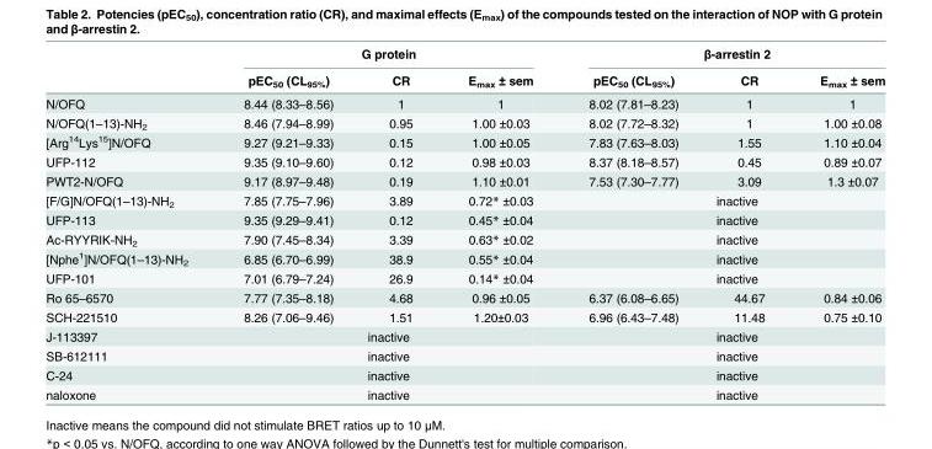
<table><thead><tr><td rowspan="2"></td><td colspan="3">G protein</td><td colspan="3">β-arrestin 2</td></tr><tr><td>pEC<sub>50</sub> (CL<sub>95%</sub>)</td><td>CR</td><td>E<sub>max</sub> ± sem</td><td>pEC<sub>50</sub> (CL<sub>95%</sub>)</td><td>CR</td><td>E<sub>max</sub> ± sem</td></tr></thead><tbody><tr><td>N/OFQ</td><td>8.44 (8.33–8.56)</td><td>1</td><td>1</td><td>8.02 (7.81–8.23)</td><td>1</td><td>1</td></tr><tr><td>N/OFQ(1–13)-NH<sub>2</sub></td><td>8.46 (7.94–8.99)</td><td>0.95</td><td>1.00 ±0.03</td><td>8.02 (7.72–8.32)</td><td>1</td><td>1.00 ±0.08</td></tr><tr><td>[Arg<sup>14</sup>Lys<sup>15</sup>]N/OFQ</td><td>9.27 (9.21–9.33)</td><td>0.15</td><td>1.00 ±0.05</td><td>7.83 (7.63–8.03)</td><td>1.55</td><td>1.10 ±0.04</td></tr><tr><td>UFP-112</td><td>9.35 (9.10–9.60)</td><td>0.12</td><td>0.98 ±0.03</td><td>8.37 (8.18–8.57)</td><td>0.45</td><td>0.89 ±0.07</td></tr><tr><td>PWT2-N/OFQ</td><td>9.17 (8.97–9.48)</td><td>0.19</td><td>1.10 ±0.01</td><td>7.53 (7.30–7.77)</td><td>3.09</td><td>1.3 ±0.07</td></tr><tr><td>[F/G]N/OFQ(1–13)-NH<sub>2</sub></td><td>7.85 (7.75–7.96)</td><td>3.89</td><td>0.72* ±0.03</td><td colspan="3">inactive</td></tr><tr><td>UFP-113</td><td>9.35 (9.29–9.41)</td><td>0.12</td><td>0.45* ±0.04</td><td colspan="3">inactive</td></tr><tr><td>Ac-RYYRIK-NH<sub>2</sub></td><td>7.90 (7.45–8.34)</td><td>3.39</td><td>0.63* ±0.02</td><td colspan="3">inactive</td></tr><tr><td>[Nphe<sup>1</sup>]N/OFQ(1–13)-NH<sub>2</sub></td><td>6.85 (6.70–6.99)</td><td>38.9</td><td>0.55* ±0.04</td><td colspan="3">inactive</td></tr><tr><td>UFP-101</td><td>7.01 (6.79–7.24)</td><td>26.9</td><td>0.14* ±0.04</td><td colspan="3">inactive</td></tr><tr><td>Ro 65–6570</td><td>7.77 (7.35–8.18)</td><td>4.68</td><td>0.96 ±0.05</td><td>6.37 (6.08–6.65)</td><td>44.67</td><td>0.84 ±0.06</td></tr><tr><td>SCH-221510</td><td>8.26 (7.06–9.46)</td><td>1.51</td><td>1.20±0.03</td><td>6.96 (6.43–7.48)</td><td>11.48</td><td>0.75 ±0.10</td></tr><tr><td>J-113397</td><td colspan="3">inactive</td><td colspan="3">inactive</td></tr><tr><td>SB-612111</td><td colspan="3">inactive</td><td colspan="3">inactive</td></tr><tr><td>C-24</td><td colspan="3">inactive</td><td colspan="3">inactive</td></tr><tr><td>naloxone</td><td colspan="3">inactive</td><td colspan="3">inactive</td></tr></tbody></table>